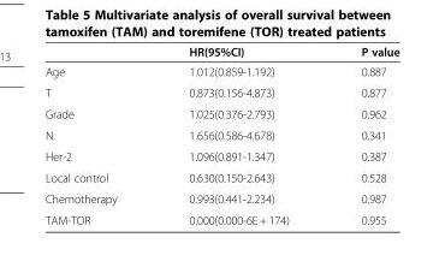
<table><thead><tr><td></td><td>HR(95%CI)</td><td>P value</td></tr></thead><tbody><tr><td>Age</td><td>1.012(0.859-1.192)</td><td>0.887</td></tr><tr><td>T</td><td>0.873(0.156-4.873)</td><td>0.877</td></tr><tr><td>Grade</td><td>1.025(0.376-2.793)</td><td>0.962</td></tr><tr><td>N</td><td>1.656(0.586-4.678)</td><td>0.341</td></tr><tr><td>Her-2</td><td>1.096(0.891-1.347)</td><td>0.387</td></tr><tr><td>Local control</td><td>0.630(0.150-2.643)</td><td>0.528</td></tr><tr><td>Chemotherapy</td><td>0.993(0.441-2.234)</td><td>0.987</td></tr><tr><td>TAM-TOR</td><td>0.000(0.000-6E + 174)</td><td>0.955</td></tr></tbody></table>